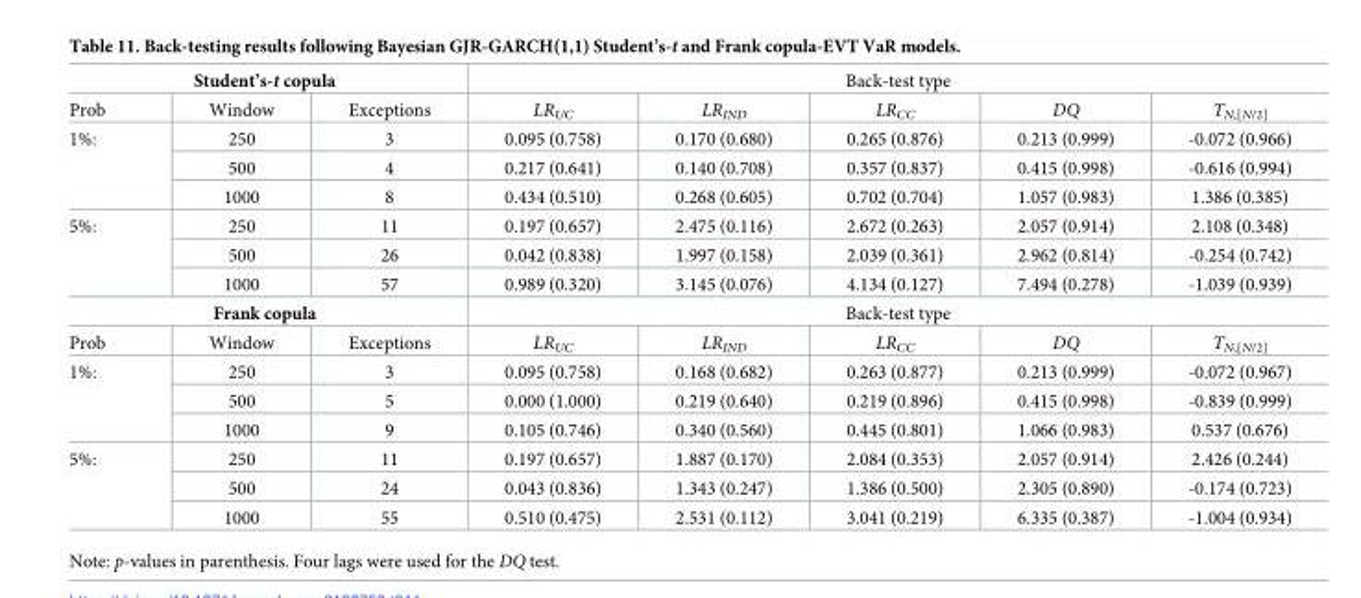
<table><tbody><tr><td colspan="3">Student’s-t copula</td><td colspan="5">Back-test type</td></tr><tr><td>Prob</td><td>Window</td><td>Exceptions</td><td>LR<sub>UC</sub></td><td>LR<sub>IND</sub></td><td>LR<sub>CC</sub></td><td>DQ</td><td>T<sub>N,[N/2]</sub></td></tr><tr><td rowspan="3">1%:</td><td>250</td><td>3</td><td>0.095 (0.758)</td><td>0.170 (0.680)</td><td>0.265 (0.876)</td><td>0.213 (0.999)</td><td>-0.072 (0.966)</td></tr><tr><td>500</td><td>4</td><td>0.217 (0.641)</td><td>0.140 (0.708)</td><td>0.357 (0.837)</td><td>0.415 (0.998)</td><td>-0.616 (0.994)</td></tr><tr><td>1000</td><td>8</td><td>0.434 (0.510)</td><td>0.268 (0.605)</td><td>0.702 (0.704)</td><td>1.057 (0.983)</td><td>1.386 (0.385)</td></tr><tr><td rowspan="3">5%:</td><td>250</td><td>11</td><td>0.197 (0.657)</td><td>2.475 (0.116)</td><td>2.672 (0.263)</td><td>2.057 (0.914)</td><td>2.108 (0.348)</td></tr><tr><td>500</td><td>26</td><td>0.042 (0.838)</td><td>1.997 (0.158)</td><td>2.039 (0.361)</td><td>2.962 (0.814)</td><td>-0.254 (0.742)</td></tr><tr><td>1000</td><td>57</td><td>0.989 (0.320)</td><td>3.145 (0.076)</td><td>4.134 (0.127)</td><td>7.494 (0.278)</td><td>-1.039 (0.939)</td></tr><tr><td colspan="3">Frank copula</td><td colspan="5">Back-test type</td></tr><tr><td>Prob</td><td>Window</td><td>Exceptions</td><td>LR<sub>UC</sub></td><td>LR<sub>IND</sub></td><td>LR<sub>CC</sub></td><td>DQ</td><td>T<sub>N,[N/2]</sub></td></tr><tr><td rowspan="3">1%:</td><td>250</td><td>3</td><td>0.095 (0.758)</td><td>0.168 (0.682)</td><td>0.263 (0.877)</td><td>0.213 (0.999)</td><td>-0.072 (0.967)</td></tr><tr><td>500</td><td>5</td><td>0.000 (1.000)</td><td>0.219 (0.640)</td><td>0.219 (0.896)</td><td>0.415 (0.998)</td><td>-0.839 (0.999)</td></tr><tr><td>1000</td><td>9</td><td>0.105 (0.746)</td><td>0.340 (0.560)</td><td>0.445 (0.801)</td><td>1.066 (0.983)</td><td>0.537 (0.676)</td></tr><tr><td rowspan="3">5%:</td><td>250</td><td>11</td><td>0.197 (0.657)</td><td>1.887 (0.170)</td><td>2.084 (0.353)</td><td>2.057 (0.914)</td><td>2.426 (0.244)</td></tr><tr><td>500</td><td>24</td><td>0.043 (0.836)</td><td>1.343 (0.247)</td><td>1.386 (0.500)</td><td>2.305 (0.890)</td><td>-0.174 (0.723)</td></tr><tr><td>1000</td><td>55</td><td>0.510 (0.475)</td><td>2.531 (0.112)</td><td>3.041 (0.219)</td><td>6.335 (0.387)</td><td>-1.004 (0.934)</td></tr></tbody></table>